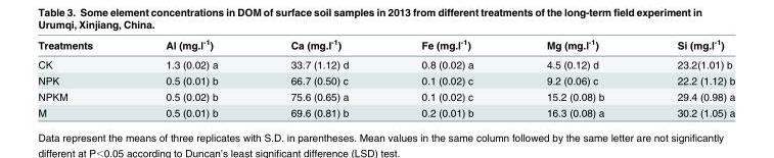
<table><thead><tr><td>Treatments</td><td>Al (mg.l<sup>-1</sup>)</td><td>Ca (mg.l<sup>-1</sup>)</td><td>Fe (mg.l<sup>-1</sup>)</td><td>Mg (mg.l<sup>-1</sup>)</td><td>Si (mg.l<sup>-1</sup>)</td></tr></thead><tbody><tr><td>CK</td><td>1.3 (0.02) a</td><td>33.7 (1.12) d</td><td>0.8 (0.02) a</td><td>4.5 (0.12) d</td><td>23.2(1.01) b</td></tr><tr><td>NPK</td><td>0.5 (0.01) b</td><td>66.7 (0.50) c</td><td>0.1 (0.02) c</td><td>9.2 (0.06) c</td><td>22.2 (1.12) b</td></tr><tr><td>NPKM</td><td>0.5 (0.02) b</td><td>75.6 (0.65) a</td><td>0.1 (0.02) c</td><td>15.2 (0.08) b</td><td>29.4 (0.98) a</td></tr><tr><td>M</td><td>0.5 (0.01) b</td><td>69.6 (0.81) b</td><td>0.2 (0.01) b</td><td>16.3 (0.08) a</td><td>30.2 (1.05) a</td></tr></tbody></table>